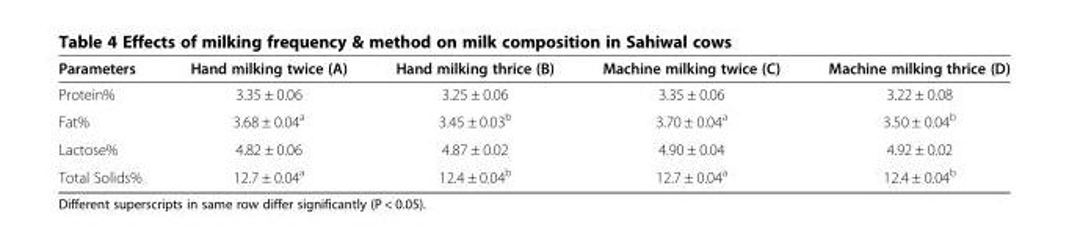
<table><thead><tr><td>Parameters</td><td>Hand milking twice (A)</td><td>Hand milking thrice (B)</td><td>Machine milking twice (C)</td><td>Machine milking thrice (D)</td></tr></thead><tbody><tr><td>Protein%</td><td>3.35 ± 0.06</td><td>3.25 ± 0.06</td><td>3.35 ± 0.06</td><td>3.22 ± 0.08</td></tr><tr><td>Fat%</td><td>3.68 ± 0.04<sup>a</sup></td><td>3.45 ± 0.03<sup>b</sup></td><td>3.70 ± 0.04<sup>a</sup></td><td>3.50 ± 0.04<sup>b</sup></td></tr><tr><td>Lactose%</td><td>4.82 ± 0.06</td><td>4.87 ± 0.02</td><td>4.90 ± 0.04</td><td>4.92 ± 0.02</td></tr><tr><td>Total Solids%</td><td>12.7 ± 0.04<sup>a</sup></td><td>12.4 ± 0.04<sup>b</sup></td><td>12.7 ± 0.04<sup>a</sup></td><td>12.4 ± 0.04<sup>b</sup></td></tr></tbody></table>